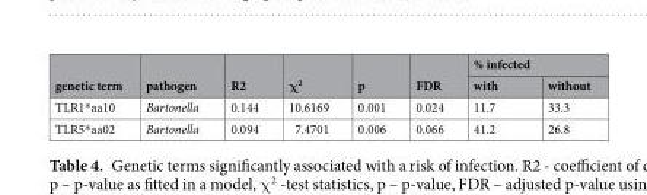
<table><thead><tr><td rowspan="2">genetic term</td><td rowspan="2">pathogen</td><td rowspan="2">R2</td><td rowspan="2">χ<sup>2</sup></td><td rowspan="2">p</td><td rowspan="2">FDR</td><td colspan="2">% infected</td></tr><tr><td>with</td><td>without</td></tr></thead><tbody><tr><td>TLR1*aa10</td><td>Bartonella</td><td>0.144</td><td>10.6169</td><td>0.001</td><td>0.024</td><td>11.7</td><td>33.3</td></tr><tr><td>TLR5*aa02</td><td>Bartonella</td><td>0.094</td><td>7.4701</td><td>0.006</td><td>0.066</td><td>41.2</td><td>26.8</td></tr></tbody></table>